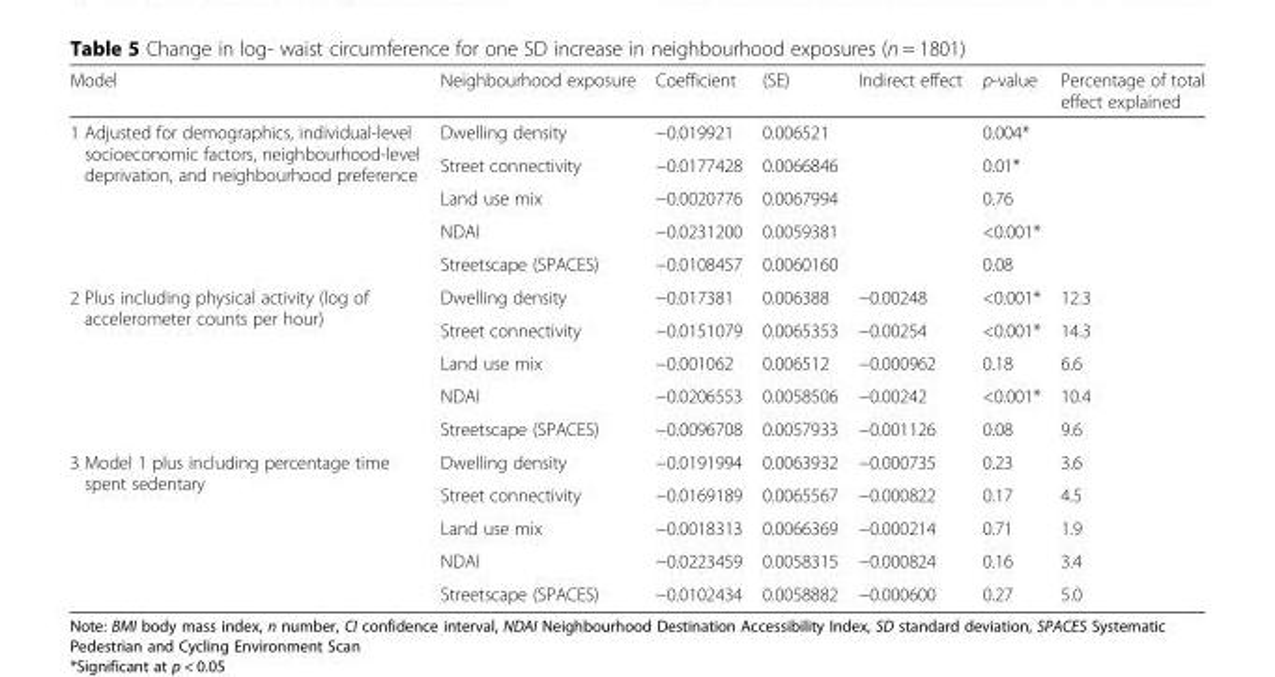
<table><thead><tr><td>Model</td><td>Neighbourhood exposure</td><td>Coefficient</td><td>(SE)</td><td>Indirect effect</td><td>p-value</td><td>Percentage of total effect explained</td></tr></thead><tbody><tr><td rowspan="5">1 Adjusted for demographics, individual-level socioeconomic factors, neighbourhood-level deprivation, and neighbourhood preference</td><td>Dwelling density</td><td>−0.019921</td><td>0.006521</td><td></td><td>0.004*</td><td></td></tr><tr><td>Street connectivity</td><td>−0.0177428</td><td>0.0066846</td><td></td><td>0.01*</td><td></td></tr><tr><td>Land use mix</td><td>−0.0020776</td><td>0.0067994</td><td></td><td>0.76</td><td></td></tr><tr><td>NDAI</td><td>−0.0231200</td><td>0.0059381</td><td></td><td>&lt;0.001*</td><td></td></tr><tr><td>Streetscape (SPACES)</td><td>−0.0108457</td><td>0.0060160</td><td></td><td>0.08</td><td></td></tr><tr><td rowspan="5">2 Plus including physical activity (log of accelerometer counts per hour)</td><td>Dwelling density</td><td>−0.017381</td><td>0.006388</td><td>−0.00248</td><td>&lt;0.001*</td><td>12.3</td></tr><tr><td>Street connectivity</td><td>−0.0151079</td><td>0.0065353</td><td>−0.00254</td><td>&lt;0.001*</td><td>14.3</td></tr><tr><td>Land use mix</td><td>−0.001062</td><td>0.006512</td><td>−0.000962</td><td>0.18</td><td>6.6</td></tr><tr><td>NDAI</td><td>−0.0206553</td><td>0.0058506</td><td>−0.00242</td><td>&lt;0.001*</td><td>10.4</td></tr><tr><td>Streetscape (SPACES)</td><td>−0.0096708</td><td>0.0057933</td><td>−0.001126</td><td>0.08</td><td>9.6</td></tr><tr><td rowspan="5">3 Model 1 plus including percentage time spent sedentary</td><td>Dwelling density</td><td>−0.0191994</td><td>0.0063932</td><td>−0.000735</td><td>0.23</td><td>3.6</td></tr><tr><td>Street connectivity</td><td>−0.0169189</td><td>0.0065567</td><td>−0.000822</td><td>0.17</td><td>4.5</td></tr><tr><td>Land use mix</td><td>−0.0018313</td><td>0.0066369</td><td>−0.000214</td><td>0.71</td><td>1.9</td></tr><tr><td>NDAI</td><td>−0.0223459</td><td>0.0058315</td><td>−0.000824</td><td>0.16</td><td>3.4</td></tr><tr><td>Streetscape (SPACES)</td><td>−0.0102434</td><td>0.0058882</td><td>−0.000600</td><td>0.27</td><td>5.0</td></tr></tbody></table>